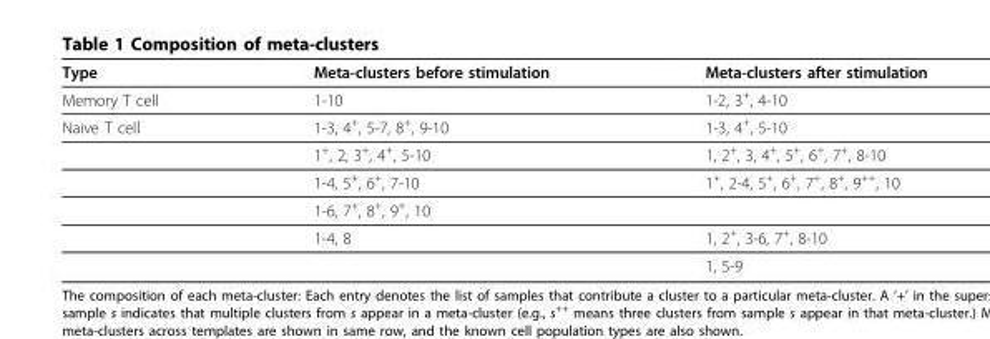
<table><thead><tr><td>Type</td><td>Meta-clusters before stimulation</td><td>Meta-clusters after stimulation</td></tr></thead><tbody><tr><td>Memory T cell</td><td>1-10</td><td>1-2, 3<sup>+</sup>, 4-10</td></tr><tr><td rowspan="6">Naive T cell</td><td>1-3, 4<sup>+</sup>, 5-7, 8<sup>+</sup>, 9-10</td><td>1-3, 4<sup>+</sup>, 5-10</td></tr><tr><td>1<sup>+</sup>, 2, 3<sup>+</sup>, 4<sup>+</sup>, 5-10</td><td>1, 2<sup>+</sup>, 3, 4<sup>+</sup>, 5<sup>+</sup>, 6<sup>+</sup>, 7<sup>+</sup>, 8-10</td></tr><tr><td>1-4, 5<sup>+</sup>, 6<sup>+</sup>, 7-10</td><td>1<sup>+</sup>, 2-4, 5<sup>+</sup>, 6<sup>+</sup>, 7<sup>+</sup>, 8<sup>+</sup>, 9<sup>++</sup>, 10</td></tr><tr><td>1-6, 7<sup>+</sup>, 8<sup>+</sup>, 9<sup>+</sup>, 10</td><td></td></tr><tr><td>1-4, 8</td><td>1, 2<sup>+</sup>, 3-6, 7<sup>+</sup>, 8-10</td></tr><tr><td></td><td>1, 5-9</td></tr></tbody></table>